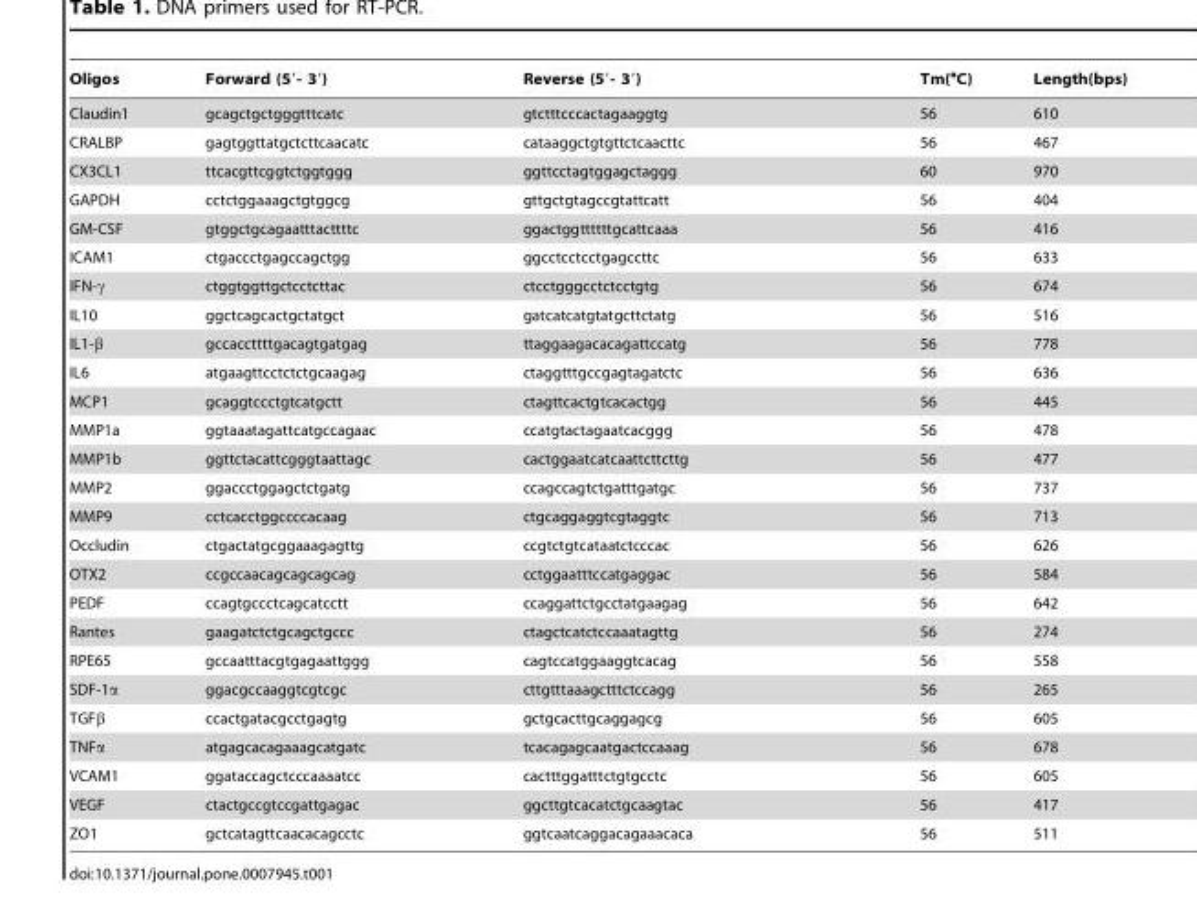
<table><thead><tr><td>Oligos</td><td>Forward (5′- 3′)</td><td>Reverse (5′- 3′)</td><td>Tm(°C)</td><td>Length(bps)</td></tr></thead><tbody><tr><td>Claudin1</td><td>gcagctgctgggtttcatc</td><td>gtctttcccactagaaggtg</td><td>56</td><td>610</td></tr><tr><td>CRALBP</td><td>gagtggttatgctcttcaacatc</td><td>cataaggctgtgttctcaacttc</td><td>56</td><td>467</td></tr><tr><td>CX3CL1</td><td>ttcacgttcggtctggtggg</td><td>ggttcctagtggagctaggg</td><td>60</td><td>970</td></tr><tr><td>GAPDH</td><td>cctctggaaagctgtggcg</td><td>gttgctgtagccgtattcatt</td><td>56</td><td>404</td></tr><tr><td>GM-CSF</td><td>gtggctgcagaatttacttttc</td><td>ggactggttttttgcattcaaa</td><td>56</td><td>416</td></tr><tr><td>ICAM1</td><td>ctgaccctgagccagctgg</td><td>ggcctcctcctgagccttc</td><td>56</td><td>633</td></tr><tr><td>IFN-γ</td><td>ctggtggttgctcctcttac</td><td>ctcctgggcctctcctgtg</td><td>56</td><td>674</td></tr><tr><td>IL10</td><td>ggctcagcactgctatgct</td><td>gatcatcatgtatgcttctatg</td><td>56</td><td>516</td></tr><tr><td>IL1-β</td><td>gccaccttttgacagtgatgag</td><td>ttaggaagacacagattccatg</td><td>56</td><td>778</td></tr><tr><td>IL6</td><td>atgaagttcctctctgcaagag</td><td>ctaggtttgccgagtagatctc</td><td>56</td><td>636</td></tr><tr><td>MCP1</td><td>gcaggtccctgtcatgctt</td><td>ctagttcactgtcacactgg</td><td>56</td><td>445</td></tr><tr><td>MMP1a</td><td>ggtaaatagattcatgccagaac</td><td>ccatgtactagaatcacggg</td><td>56</td><td>478</td></tr><tr><td>MMP1b</td><td>ggttctacattcgggtaattagc</td><td>cactggaatcatcaattcttcttg</td><td>56</td><td>477</td></tr><tr><td>MMP2</td><td>ggaccctggagctctgatg</td><td>ccagccagtctgatttgatgc</td><td>56</td><td>737</td></tr><tr><td>MMP9</td><td>cctcacctggccccacaag</td><td>ctgcaggaggtcgtaggtc</td><td>56</td><td>713</td></tr><tr><td>Occludin</td><td>ctgactatgcggaaagagttg</td><td>ccgtctgtcataatctcccac</td><td>56</td><td>626</td></tr><tr><td>OTX2</td><td>ccgccaacagcagcagcag</td><td>cctggaatttccatgaggac</td><td>56</td><td>584</td></tr><tr><td>PEDF</td><td>ccagtgccctcagcatcctt</td><td>ccaggattctgcctatgaagag</td><td>56</td><td>642</td></tr><tr><td>Rantes</td><td>gaagatctctgcagctgccc</td><td>ctagctcatctccaaatagttg</td><td>56</td><td>274</td></tr><tr><td>RPE65</td><td>gccaatttacgtgagaattggg</td><td>cagtccatggaaggtcacag</td><td>56</td><td>558</td></tr><tr><td>SDF-1α</td><td>ggacgccaaggtcgtcgc</td><td>cttgtttaaagctttctccagg</td><td>56</td><td>265</td></tr><tr><td>TGFβ</td><td>ccactgatacgcctgagtg</td><td>gctgcacttgcaggagcg</td><td>56</td><td>605</td></tr><tr><td>TNFα</td><td>atgagcacagaaagcatgatc</td><td>tcacagagcaatgactccaaag</td><td>56</td><td>678</td></tr><tr><td>VCAM1</td><td>ggataccagctcccaaaatcc</td><td>cactttggatttctgtgcctc</td><td>56</td><td>605</td></tr><tr><td>VEGF</td><td>ctactgccgtccgattgagac</td><td>ggcttgtcacatctgcaagtac</td><td>56</td><td>417</td></tr><tr><td>ZO1</td><td>gctcatagttcaacacagcctc</td><td>ggtcaatcaggacagaaacaca</td><td>56</td><td>511</td></tr></tbody></table>